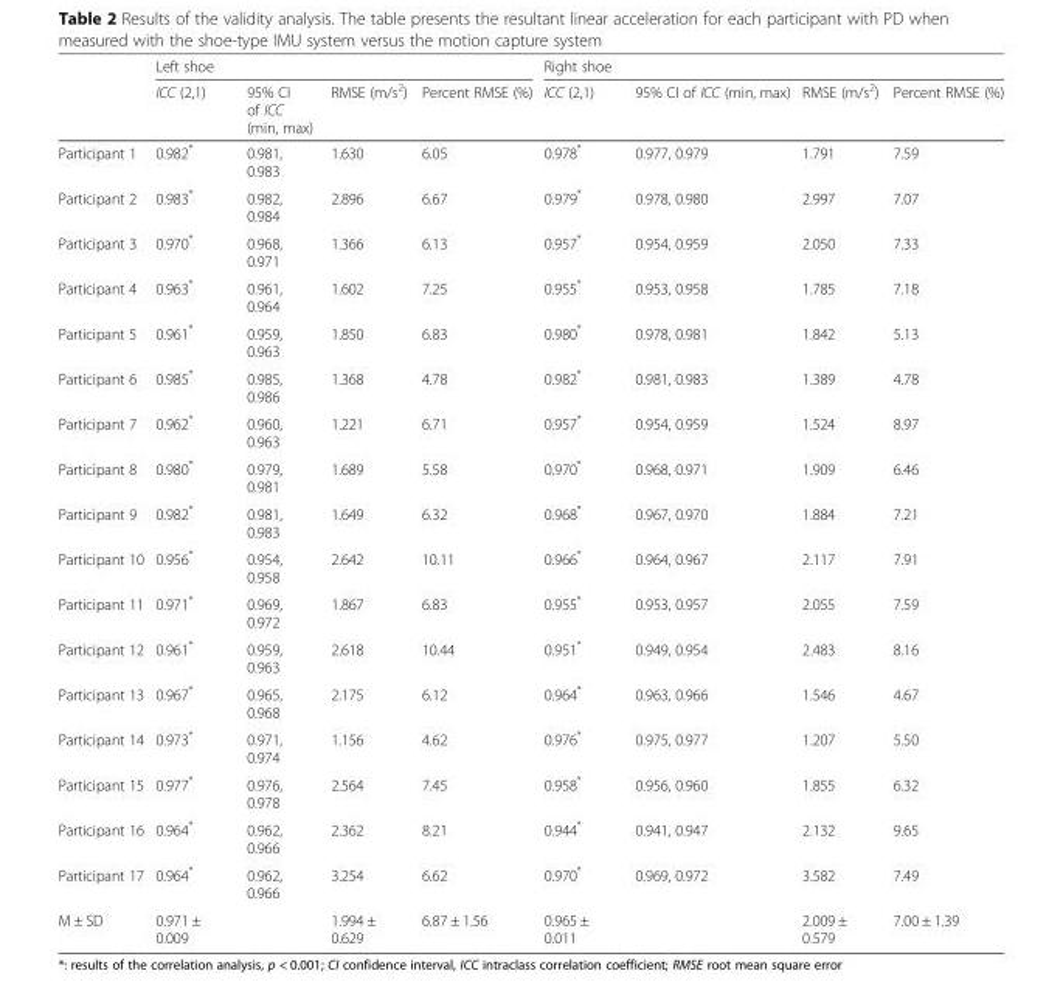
<table><thead><tr><td rowspan="2"></td><td colspan="4">Left shoe</td><td colspan="4">Right shoe</td></tr><tr><td>ICC (2,1)</td><td>95% CI of ICC (min, max)</td><td>RMSE (m/s<sup>2</sup>)</td><td>Percent RMSE (%)</td><td>ICC (2,1)</td><td>95% CI of ICC (min, max)</td><td>RMSE (m/s<sup>2</sup>)</td><td>Percent RMSE (%)</td></tr></thead><tbody><tr><td>Participant 1</td><td>0.982*</td><td>0.981, 0.983</td><td>1.630</td><td>6.05</td><td>0.978*</td><td>0.977, 0.979</td><td>1.791</td><td>7.59</td></tr><tr><td>Participant 2</td><td>0.983*</td><td>0.982, 0.984</td><td>2.896</td><td>6.67</td><td>0.979*</td><td>0.978, 0.980</td><td>2.997</td><td>7.07</td></tr><tr><td>Participant 3</td><td>0.970*</td><td>0.968, 0.971</td><td>1.366</td><td>6.13</td><td>0.957*</td><td>0.954, 0.959</td><td>2.050</td><td>7.33</td></tr><tr><td>Participant 4</td><td>0.963*</td><td>0.961, 0.964</td><td>1.602</td><td>7.25</td><td>0.955*</td><td>0.953, 0.958</td><td>1.785</td><td>7.18</td></tr><tr><td>Participant 5</td><td>0.961*</td><td>0.959, 0.963</td><td>1.850</td><td>6.83</td><td>0.980*</td><td>0.978, 0.981</td><td>1.842</td><td>5.13</td></tr><tr><td>Participant 6</td><td>0.985*</td><td>0.985, 0.986</td><td>1.368</td><td>4.78</td><td>0.982*</td><td>0.981, 0.983</td><td>1.389</td><td>4.78</td></tr><tr><td>Participant 7</td><td>0.962*</td><td>0.960, 0.963</td><td>1.221</td><td>6.71</td><td>0.957*</td><td>0.954, 0.959</td><td>1.524</td><td>8.97</td></tr><tr><td>Participant 8</td><td>0.980*</td><td>0.979, 0.981</td><td>1.689</td><td>5.58</td><td>0.970*</td><td>0.968, 0.971</td><td>1.909</td><td>6.46</td></tr><tr><td>Participant 9</td><td>0.982*</td><td>0.981, 0.983</td><td>1.649</td><td>6.32</td><td>0.968*</td><td>0.967, 0.970</td><td>1.884</td><td>7.21</td></tr><tr><td>Participant 10</td><td>0.956*</td><td>0.954, 0.958</td><td>2.642</td><td>10.11</td><td>0.966*</td><td>0.964, 0.967</td><td>2.117</td><td>7.91</td></tr><tr><td>Participant 11</td><td>0.971*</td><td>0.969, 0.972</td><td>1.867</td><td>6.83</td><td>0.955*</td><td>0.953, 0.957</td><td>2.055</td><td>7.59</td></tr><tr><td>Participant 12</td><td>0.961*</td><td>0.959, 0.963</td><td>2.618</td><td>10.44</td><td>0.951*</td><td>0.949, 0.954</td><td>2.483</td><td>8.16</td></tr><tr><td>Participant 13</td><td>0.967*</td><td>0.965, 0.968</td><td>2.175</td><td>6.12</td><td>0.964*</td><td>0.963, 0.966</td><td>1.546</td><td>4.67</td></tr><tr><td>Participant 14</td><td>0.973*</td><td>0.971, 0.974</td><td>1.156</td><td>4.62</td><td>0.976*</td><td>0.975, 0.977</td><td>1.207</td><td>5.50</td></tr><tr><td>Participant 15</td><td>0.977*</td><td>0.976, 0.978</td><td>2.564</td><td>7.45</td><td>0.958*</td><td>0.956, 0.960</td><td>1.855</td><td>6.32</td></tr><tr><td>Participant 16</td><td>0.964*</td><td>0.962, 0.966</td><td>2.362</td><td>8.21</td><td>0.944*</td><td>0.941, 0.947</td><td>2.132</td><td>9.65</td></tr><tr><td>Participant 17</td><td>0.964*</td><td>0.962, 0.966</td><td>3.254</td><td>6.62</td><td>0.970*</td><td>0.969, 0.972</td><td>3.582</td><td>7.49</td></tr><tr><td>M ± SD</td><td>0.971 ± 0.009</td><td></td><td>1.994 ± 0.629</td><td>6.87 ± 1.56</td><td>0.965 ± 0.011</td><td></td><td>2.009 ± 0.579</td><td>7.00 ± 1.39</td></tr></tbody></table>